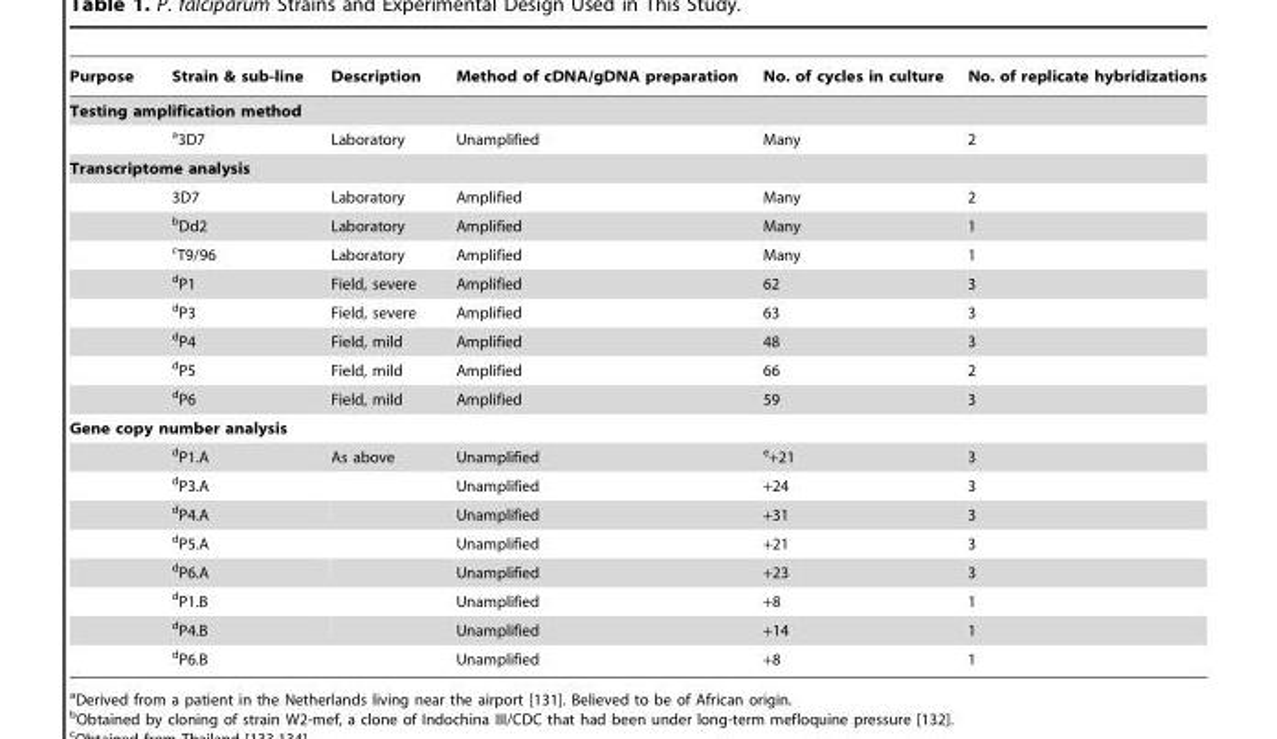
<table><thead><tr><td>Purpose</td><td>Strain &amp; sub-line</td><td>Description</td><td>Method of cDNA/gDNA preparation</td><td>No. of cycles in culture</td><td>No. of replicate hybridizations</td></tr></thead><tbody><tr><td colspan="6">Testing amplification method</td></tr><tr><td></td><td>a3D7</td><td>Laboratory</td><td>Unamplified</td><td>Many</td><td>2</td></tr><tr><td colspan="6">Transcriptome analysis</td></tr><tr><td></td><td>3D7</td><td>Laboratory</td><td>Amplified</td><td>Many</td><td>2</td></tr><tr><td></td><td>bDd2</td><td>Laboratory</td><td>Amplified</td><td>Many</td><td>1</td></tr><tr><td></td><td>cT9/96</td><td>Laboratory</td><td>Amplified</td><td>Many</td><td>1</td></tr><tr><td></td><td>dP1</td><td>Field, severe</td><td>Amplified</td><td>62</td><td>3</td></tr><tr><td></td><td>dP3</td><td>Field, severe</td><td>Amplified</td><td>63</td><td>3</td></tr><tr><td></td><td>dP4</td><td>Field, mild</td><td>Amplified</td><td>48</td><td>3</td></tr><tr><td></td><td>dP5</td><td>Field, mild</td><td>Amplified</td><td>66</td><td>2</td></tr><tr><td></td><td>dP6</td><td>Field, mild</td><td>Amplified</td><td>59</td><td>3</td></tr><tr><td colspan="6">Gene copy number analysis</td></tr><tr><td></td><td>dP1.A</td><td>As above</td><td>Unamplified</td><td>e+21</td><td>3</td></tr><tr><td></td><td>dP3.A</td><td></td><td>Unamplified</td><td>+24</td><td>3</td></tr><tr><td></td><td>dP4.A</td><td></td><td>Unamplified</td><td>+31</td><td>3</td></tr><tr><td></td><td>dP5.A</td><td></td><td>Unamplified</td><td>+21</td><td>3</td></tr><tr><td></td><td>dP6.A</td><td></td><td>Unamplified</td><td>+23</td><td>3</td></tr><tr><td></td><td>dP1.B</td><td></td><td>Unamplified</td><td>+8</td><td>1</td></tr><tr><td></td><td>dP4.B</td><td></td><td>Unamplified</td><td>+14</td><td>1</td></tr><tr><td></td><td>dP6.B</td><td></td><td>Unamplified</td><td>+8</td><td>1</td></tr></tbody></table>